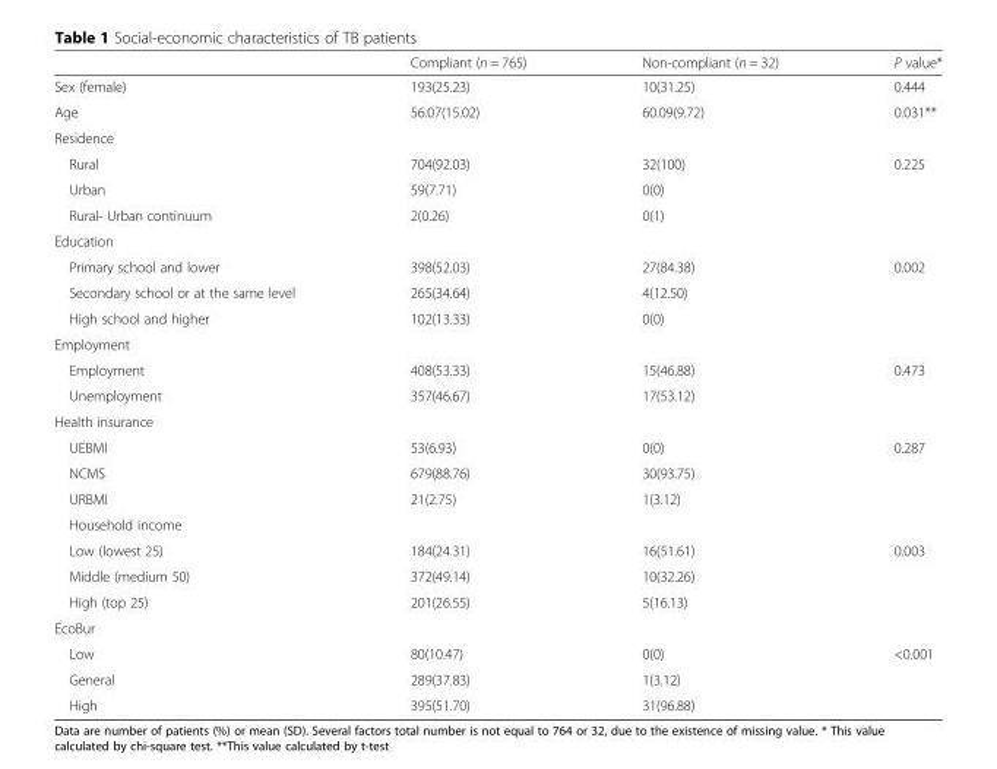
<table><thead><tr><td></td><td>Compliant (n = 765)</td><td>Non-compliant (n = 32)</td><td>P value*</td></tr></thead><tbody><tr><td>Sex (female)</td><td>193(25.23)</td><td>10(31.25)</td><td>0.444</td></tr><tr><td>Age</td><td>56.07(15.02)</td><td>60.09(9.72)</td><td>0.031**</td></tr><tr><td colspan="4">Residence</td></tr><tr><td>Rural</td><td>704(92.03)</td><td>32(100)</td><td rowspan="3">0.225</td></tr><tr><td>Urban</td><td>59(7.71)</td><td>0(0)</td></tr><tr><td>Rural- Urban continuum</td><td>2(0.26)</td><td>0(1)</td></tr><tr><td colspan="4">Education</td></tr><tr><td>Primary school and lower</td><td>398(52.03)</td><td>27(84.38)</td><td rowspan="3">0.002</td></tr><tr><td>Secondary school or at the same level</td><td>265(34.64)</td><td>4(12.50)</td></tr><tr><td>High school and higher</td><td>102(13.33)</td><td>0(0)</td></tr><tr><td colspan="4">Employment</td></tr><tr><td>Employment</td><td>408(53.33)</td><td>15(46.88)</td><td rowspan="2">0.473</td></tr><tr><td>Unemployment</td><td>357(46.67)</td><td>17(53.12)</td></tr><tr><td colspan="4">Health insurance</td></tr><tr><td>UEBMI</td><td>53(6.93)</td><td>0(0)</td><td rowspan="3">0.287</td></tr><tr><td>NCMS</td><td>679(88.76)</td><td>30(93.75)</td></tr><tr><td>URBMI</td><td>21(2.75)</td><td>1(3.12)</td></tr><tr><td colspan="4">Household income</td></tr><tr><td>Low (lowest 25)</td><td>184(24.31)</td><td>16(51.61)</td><td rowspan="3">0.003</td></tr><tr><td>Middle (medium 50)</td><td>372(49.14)</td><td>10(32.26)</td></tr><tr><td>High (top 25)</td><td>201(26.55)</td><td>5(16.13)</td></tr><tr><td colspan="4">EcoBur</td></tr><tr><td>Low</td><td>80(10.47)</td><td>0(0)</td><td rowspan="3">&lt;0.001</td></tr><tr><td>General</td><td>289(37.83)</td><td>1(3.12)</td></tr><tr><td>High</td><td>395(51.70)</td><td>31(96.88)</td></tr></tbody></table>